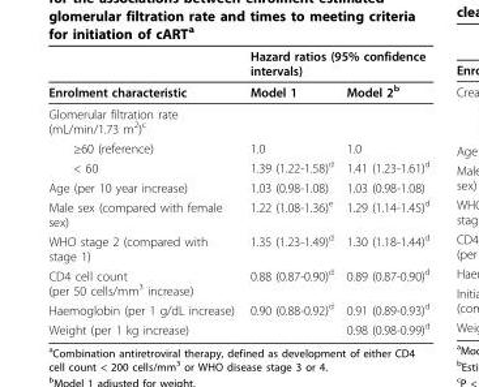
<table><thead><tr><td rowspan="2">Enrolment characteristic</td><td colspan="2">Hazard ratios (95% confidence intervals)</td></tr><tr><td>Model 1</td><td>Model 2<sup>b</sup></td></tr></thead><tbody><tr><td colspan="3">Glomerular filtration rate (mL/min/1.73 m<sup>2</sup>)<sup>c</sup></td></tr><tr><td>≥60 (reference)</td><td>1.0</td><td>1.0</td></tr><tr><td>&lt; 60</td><td>1.39 (1.22-1.58)<sup>d</sup></td><td>1.41 (1.23-1.61)<sup>d</sup></td></tr><tr><td>Age (per 10 year increase)</td><td>1.03 (0.98-1.08)</td><td>1.03 (0.98-1.08)</td></tr><tr><td>Male sex (compared with female sex)</td><td>1.22 (1.08-1.36)<sup>e</sup></td><td>1.29 (1.14-1.45)<sup>d</sup></td></tr><tr><td>WHO stage 2 (compared with stage 1)</td><td>1.35 (1.23-1.49)<sup>d</sup></td><td>1.30 (1.18-1.44)<sup>d</sup></td></tr><tr><td>CD4 cell count (per 50 cells/mm<sup>3</sup> increase)</td><td>0.88 (0.87-0.90)<sup>d</sup></td><td>0.89 (0.87-0.90)<sup>d</sup></td></tr><tr><td>Haemoglobin (per 1 g/dL increase)</td><td>0.90 (0.88-0.92)<sup>d</sup></td><td>0.91 (0.89-0.93)<sup>d</sup></td></tr><tr><td>Weight (per 1 kg increase)</td><td></td><td>0.98 (0.98-0.99)<sup>d</sup></td></tr></tbody></table>